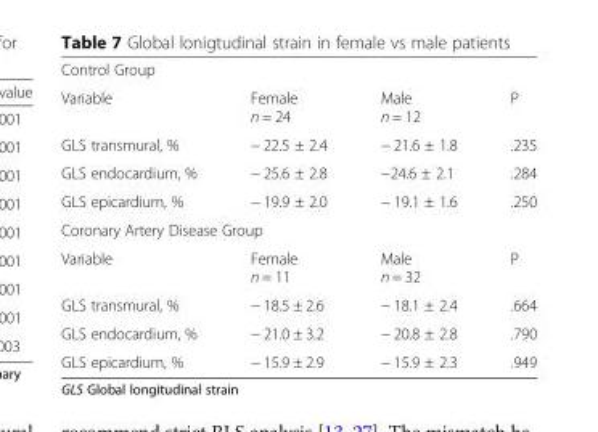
<table><tbody><tr><td colspan="4">Control Group</td></tr><tr><td>Variable</td><td>Female n = 24</td><td>Male n = 12</td><td>P</td></tr><tr><td>GLS transmural, %</td><td>− 22.5 ± 2.4</td><td>− 21.6 ± 1.8</td><td>.235</td></tr><tr><td>GLS endocardium, %</td><td>− 25.6 ± 2.8</td><td>−24.6 ± 2.1</td><td>.284</td></tr><tr><td>GLS epicardium, %</td><td>− 19.9 ± 2.0</td><td>− 19.1 ± 1.6</td><td>.250</td></tr><tr><td colspan="4">Coronary Artery Disease Group</td></tr><tr><td>Variable</td><td>Female n = 11</td><td>Male n = 32</td><td>P</td></tr><tr><td>GLS transmural, %</td><td>− 18.5 ± 2.6</td><td>− 18.1 ± 2.4</td><td>.664</td></tr><tr><td>GLS endocardium, %</td><td>− 21.0 ± 3.2</td><td>− 20.8 ± 2.8</td><td>.790</td></tr><tr><td>GLS epicardium, %</td><td>− 15.9 ± 2.9</td><td>− 15.9 ± 2.3</td><td>.949</td></tr></tbody></table>